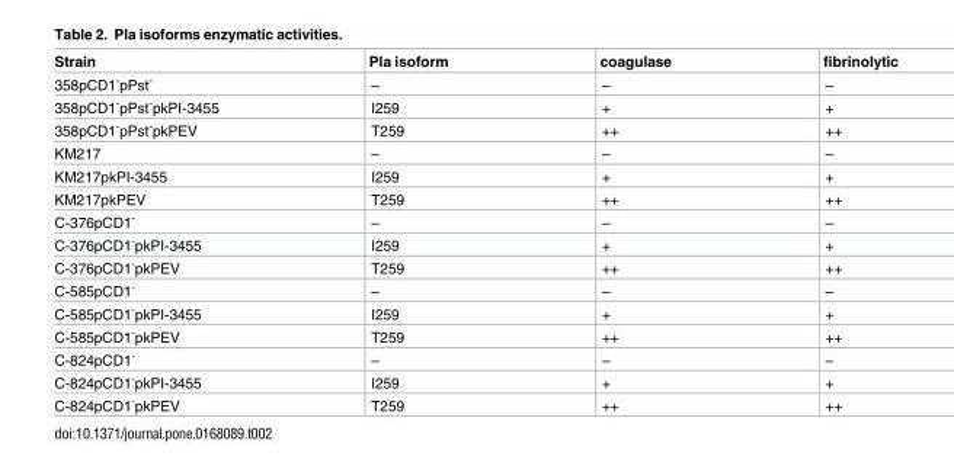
<table><thead><tr><td>Strain</td><td>Pla isoform</td><td>coagulase</td><td>fibrinolytic</td></tr></thead><tbody><tr><td>358pCD1<sup>-</sup>pPst<sup>-</sup></td><td>–</td><td>–</td><td>–</td></tr><tr><td>358pCD1<sup>-</sup>pPst<sup>-</sup>pkPI-3455</td><td>I259</td><td>+</td><td>+</td></tr><tr><td>358pCD1<sup>-</sup>pPst<sup>-</sup>pkPEV</td><td>T259</td><td>++</td><td>++</td></tr><tr><td>KM217</td><td>–</td><td>–</td><td>–</td></tr><tr><td>KM217pkPI-3455</td><td>I259</td><td>+</td><td>+</td></tr><tr><td>KM217pkPEV</td><td>T259</td><td>++</td><td>++</td></tr><tr><td>C-376pCD1<sup>-</sup></td><td>–</td><td>–</td><td>–</td></tr><tr><td>C-376pCD1<sup>-</sup>pkPI-3455</td><td>I259</td><td>+</td><td>+</td></tr><tr><td>C-376pCD1<sup>-</sup>pkPEV</td><td>T259</td><td>++</td><td>++</td></tr><tr><td>C-585pCD1<sup>-</sup></td><td>–</td><td>–</td><td>–</td></tr><tr><td>C-585pCD1<sup>-</sup>pkPI-3455</td><td>I259</td><td>+</td><td>+</td></tr><tr><td>C-585pCD1<sup>-</sup>pkPEV</td><td>T259</td><td>++</td><td>++</td></tr><tr><td>C-824pCD1<sup>-</sup></td><td>–</td><td>–</td><td>–</td></tr><tr><td>C-824pCD1<sup>-</sup>pkPI-3455</td><td>I259</td><td>+</td><td>+</td></tr><tr><td>C-824pCD1<sup>-</sup>pkPEV</td><td>T259</td><td>++</td><td>++</td></tr></tbody></table>